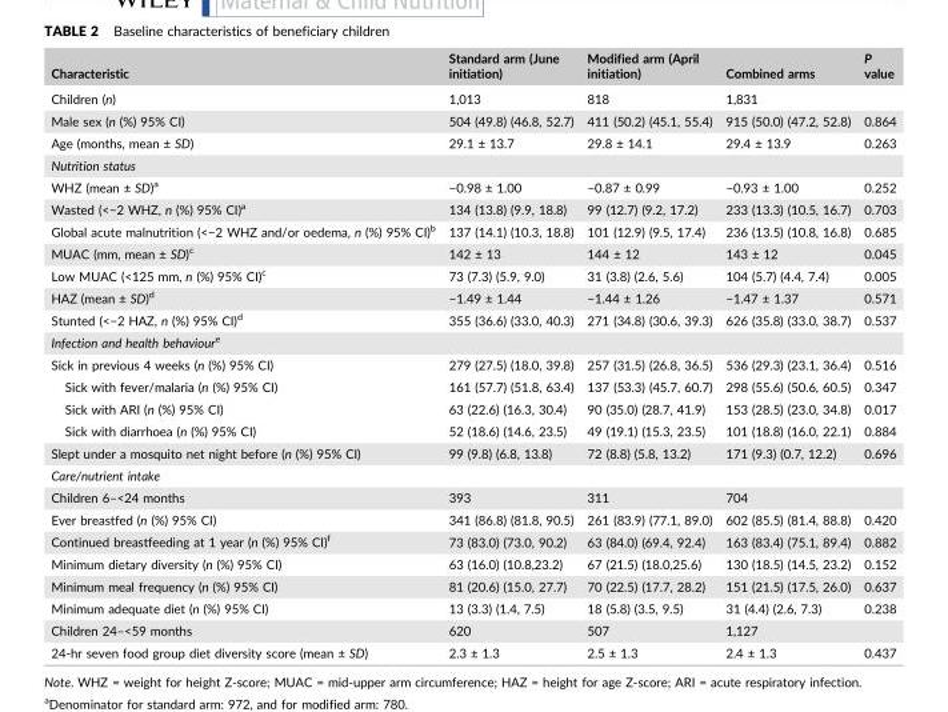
<table><thead><tr><td>Characteristic</td><td>Standard arm (June initiation)</td><td>Modified arm (April initiation)</td><td>Combined arms</td><td>P value</td></tr></thead><tbody><tr><td>Children (n)</td><td>1,013</td><td>818</td><td>1,831</td><td></td></tr><tr><td>Male sex (n (%) 95% CI)</td><td>504 (49.8) (46.8, 52.7)</td><td>411 (50.2) (45.1, 55.4)</td><td>915 (50.0) (47.2, 52.8)</td><td>0.864</td></tr><tr><td>Age (months, mean ± SD)</td><td>29.1 ± 13.7</td><td>29.8 ± 14.1</td><td>29.4 ± 13.9</td><td>0.263</td></tr><tr><td colspan="5">Nutrition status</td></tr><tr><td>WHZ (mean ± SD)<sup>a</sup></td><td>−0.98 ± 1.00</td><td>−0.87 ± 0.99</td><td>−0.93 ± 1.00</td><td>0.252</td></tr><tr><td>Wasted (&lt;−2 WHZ, n (%) 95% CI)<sup>a</sup></td><td>134 (13.8) (9.9, 18.8)</td><td>99 (12.7) (9.2, 17.2)</td><td>233 (13.3) (10.5, 16.7)</td><td>0.703</td></tr><tr><td>Global acute malnutrition (&lt;−2 WHZ and/or oedema, n (%) 95% CI)<sup>b</sup></td><td>137 (14.1) (10.3, 18.8)</td><td>101 (12.9) (9.5, 17.4)</td><td>236 (13.5) (10.8, 16.8)</td><td>0.685</td></tr><tr><td>MUAC (mm, mean ± SD)<sup>c</sup></td><td>142 ± 13</td><td>144 ± 12</td><td>143 ± 12</td><td>0.045</td></tr><tr><td>Low MUAC (&lt;125 mm, n (%) 95% CI)<sup>c</sup></td><td>73 (7.3) (5.9, 9.0)</td><td>31 (3.8) (2.6, 5.6)</td><td>104 (5.7) (4.4, 7.4)</td><td>0.005</td></tr><tr><td>HAZ (mean ± SD)<sup>d</sup></td><td>−1.49 ± 1.44</td><td>−1.44 ± 1.26</td><td>−1.47 ± 1.37</td><td>0.571</td></tr><tr><td>Stunted (&lt;−2 HAZ, n (%) 95% CI)<sup>d</sup></td><td>355 (36.6) (33.0, 40.3)</td><td>271 (34.8) (30.6, 39.3)</td><td>626 (35.8) (33.0, 38.7)</td><td>0.537</td></tr><tr><td colspan="5">Infection and health behavioure</td></tr><tr><td>Sick in previous 4 weeks (n (%) 95% CI)</td><td>279 (27.5) (18.0, 39.8)</td><td>257 (31.5) (26.8, 36.5)</td><td>536 (29.3) (23.1, 36.4)</td><td>0.516</td></tr><tr><td>Sick with fever/malaria (n (%) 95% CI)</td><td>161 (57.7) (51.8, 63.4)</td><td>137 (53.3) (45.7, 60.7)</td><td>298 (55.6) (50.6, 60.5)</td><td>0.347</td></tr><tr><td>Sick with ARI (n (%) 95% CI)</td><td>63 (22.6) (16.3, 30.4)</td><td>90 (35.0) (28.7, 41.9)</td><td>153 (28.5) (23.0, 34.8)</td><td>0.017</td></tr><tr><td>Sick with diarrhoea (n (%) 95% CI)</td><td>52 (18.6) (14.6, 23.5)</td><td>49 (19.1) (15.3, 23.5)</td><td>101 (18.8) (16.0, 22.1)</td><td>0.884</td></tr><tr><td>Slept under a mosquito net night before (n (%) 95% CI)</td><td>99 (9.8) (6.8, 13.8)</td><td>72 (8.8) (5.8, 13.2)</td><td>171 (9.3) (0.7, 12.2)</td><td>0.696</td></tr><tr><td colspan="5">Care/nutrient intake</td></tr><tr><td>Children 6–&lt;24 months</td><td>393</td><td>311</td><td>704</td><td></td></tr><tr><td>Ever breastfed (n (%) 95% CI)</td><td>341 (86.8) (81.8, 90.5)</td><td>261 (83.9) (77.1, 89.0)</td><td>602 (85.5) (81.4, 88.8)</td><td>0.420</td></tr><tr><td>Continued breastfeeding at 1 year (n (%) 95% CI)<sup>f</sup></td><td>73 (83.0) (73.0, 90.2)</td><td>63 (84.0) (69.4, 92.4)</td><td>163 (83.4) (75.1, 89.4)</td><td>0.882</td></tr><tr><td>Minimum dietary diversity (n (%) 95% CI)</td><td>63 (16.0) (10.8,23.2)</td><td>67 (21.5) (18.0,25.6)</td><td>130 (18.5) (14.5, 23.2)</td><td>0.152</td></tr><tr><td>Minimum meal frequency (n (%) 95% CI)</td><td>81 (20.6) (15.0, 27.7)</td><td>70 (22.5) (17.7, 28.2)</td><td>151 (21.5) (17.5, 26.0)</td><td>0.637</td></tr><tr><td>Minimum adequate diet (n (%) 95% CI)</td><td>13 (3.3) (1.4, 7.5)</td><td>18 (5.8) (3.5, 9.5)</td><td>31 (4.4) (2.6, 7.3)</td><td>0.238</td></tr><tr><td>Children 24–&lt;59 months</td><td>620</td><td>507</td><td>1,127</td><td></td></tr><tr><td>24‐hr seven food group diet diversity score (mean ± SD)</td><td>2.3 ± 1.3</td><td>2.5 ± 1.3</td><td>2.4 ± 1.3</td><td>0.437</td></tr></tbody></table>